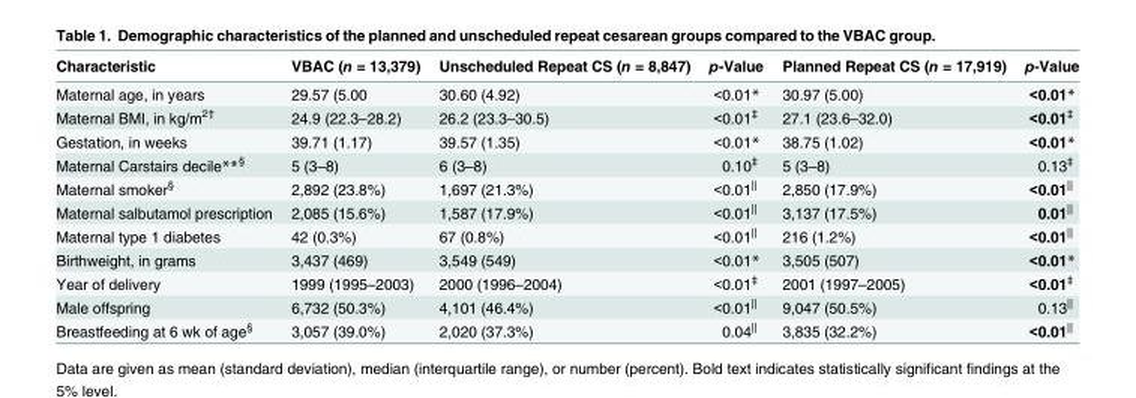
<table><thead><tr><td>Characteristic</td><td>VBAC (n = 13,379)</td><td>Unscheduled Repeat CS (n = 8,847)</td><td>p-Value</td><td>Planned Repeat CS (n = 17,919)</td><td>p-Value</td></tr></thead><tbody><tr><td>Maternal age, in years</td><td>29.57 (5.00</td><td>30.60 (4.92)</td><td>&lt;0.01*</td><td>30.97 (5.00)</td><td>&lt;0.01*</td></tr><tr><td>Maternal BMI, in kg/m<sup>2†</sup></td><td>24.9 (22.3–28.2)</td><td>26.2 (23.3–30.5)</td><td>&lt;0.01<sup>‡</sup></td><td>27.1 (23.6–32.0)</td><td>&lt;0.01<sup>‡</sup></td></tr><tr><td>Gestation, in weeks</td><td>39.71 (1.17)</td><td>39.57 (1.35)</td><td>&lt;0.01*</td><td>38.75 (1.02)</td><td>&lt;0.01*</td></tr><tr><td>Maternal Carstairs decile**<sup>§</sup></td><td>5 (3–8)</td><td>6 (3–8)</td><td>0.10<sup>‡</sup></td><td>5 (3–8)</td><td>0.13<sup>‡</sup></td></tr><tr><td>Maternal smoker<sup>§</sup></td><td>2,892 (23.8%)</td><td>1,697 (21.3%)</td><td>&lt;0.01<sup>||</sup></td><td>2,850 (17.9%)</td><td>&lt;0.01<sup>||</sup></td></tr><tr><td>Maternal salbutamol prescription</td><td>2,085 (15.6%)</td><td>1,587 (17.9%)</td><td>&lt;0.01<sup>||</sup></td><td>3,137 (17.5%)</td><td>0.01<sup>||</sup></td></tr><tr><td>Maternal type 1 diabetes</td><td>42 (0.3%)</td><td>67 (0.8%)</td><td>&lt;0.01<sup>||</sup></td><td>216 (1.2%)</td><td>&lt;0.01<sup>||</sup></td></tr><tr><td>Birthweight, in grams</td><td>3,437 (469)</td><td>3,549 (549)</td><td>&lt;0.01*</td><td>3,505 (507)</td><td>&lt;0.01*</td></tr><tr><td>Year of delivery</td><td>1999 (1995–2003)</td><td>2000 (1996–2004)</td><td>&lt;0.01<sup>‡</sup></td><td>2001 (1997–2005)</td><td>&lt;0.01<sup>‡</sup></td></tr><tr><td>Male offspring</td><td>6,732 (50.3%)</td><td>4,101 (46.4%)</td><td>&lt;0.01<sup>||</sup></td><td>9,047 (50.5%)</td><td>0.13<sup>||</sup></td></tr><tr><td>Breastfeeding at 6 wk of age<sup>§</sup></td><td>3,057 (39.0%)</td><td>2,020 (37.3%)</td><td>0.04<sup>||</sup></td><td>3,835 (32.2%)</td><td>&lt;0.01<sup>||</sup></td></tr></tbody></table>